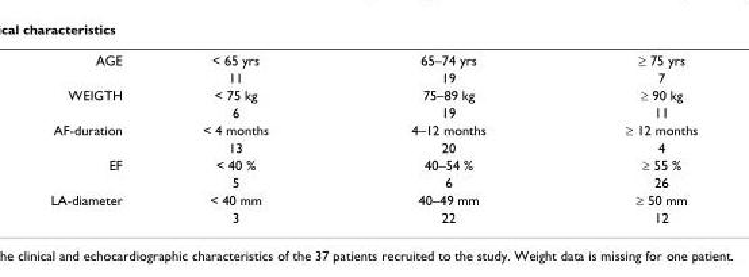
<table><tbody><tr><td rowspan="2">AGE</td><td>&lt; 65 yrs</td><td>65–74 yrs</td><td>≥ 75 yrs</td></tr><tr><td>11</td><td>19</td><td>7</td></tr><tr><td rowspan="2">WEIGTH</td><td>&lt; 75 kg</td><td>75–89 kg</td><td>≥ 90 kg</td></tr><tr><td>6</td><td>19</td><td>11</td></tr><tr><td rowspan="2">AF-duration</td><td>&lt; 4 months</td><td>4–12 months</td><td>≥ 12 months</td></tr><tr><td>13</td><td>20</td><td>4</td></tr><tr><td rowspan="2">EF</td><td>&lt; 40 %</td><td>40–54 %</td><td>≥ 55 %</td></tr><tr><td>5</td><td>6</td><td>26</td></tr><tr><td rowspan="2">LA-diameter</td><td>&lt; 40 mm</td><td>40–49 mm</td><td>≥ 50 mm</td></tr><tr><td>3</td><td>22</td><td>12</td></tr></tbody></table>